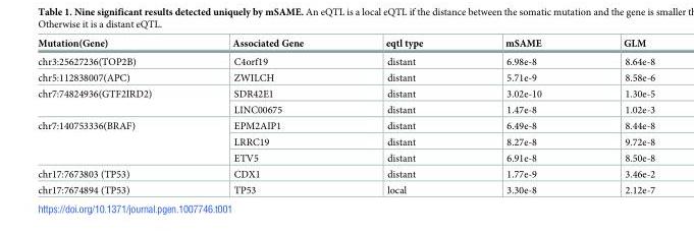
<table><thead><tr><td>Mutation(Gene)</td><td>Associated Gene</td><td>eqtl type</td><td>mSAME</td><td>GLM</td></tr></thead><tbody><tr><td>chr3:25627236(TOP2B)</td><td>C4orf19</td><td>distant</td><td>6.98e-8</td><td>8.64e-8</td></tr><tr><td>chr5:112838007(APC)</td><td>ZWILCH</td><td>distant</td><td>5.71e-9</td><td>8.58e-6</td></tr><tr><td rowspan="2">chr7:74824936(GTF2IRD2)</td><td>SDR42E1</td><td>distant</td><td>3.02e-10</td><td>1.30e-5</td></tr><tr><td>LINC00675</td><td>distant</td><td>1.47e-8</td><td>1.02e-3</td></tr><tr><td rowspan="3">chr7:140753336(BRAF)</td><td>EPM2AIP1</td><td>distant</td><td>6.49e-8</td><td>8.44e-8</td></tr><tr><td>LRRC19</td><td>distant</td><td>8.27e-8</td><td>9.72e-8</td></tr><tr><td>ETV5</td><td>distant</td><td>6.91e-8</td><td>8.50e-8</td></tr><tr><td>chr17:7673803 (TP53)</td><td>CDX1</td><td>distant</td><td>1.77e-9</td><td>3.46e-2</td></tr><tr><td>chr17:7674894 (TP53)</td><td>TP53</td><td>local</td><td>3.30e-8</td><td>2.12e-7</td></tr></tbody></table>